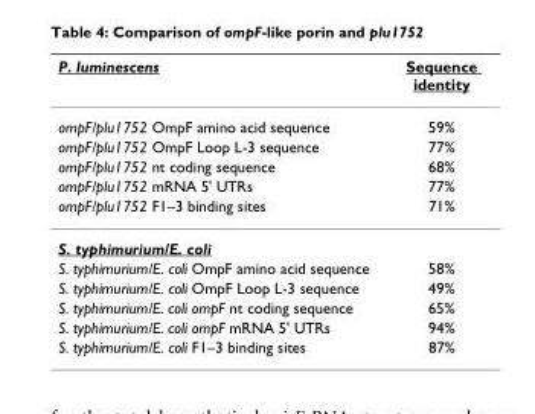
<table><thead><tr><td>P. luminescens</td><td>Sequence identity</td></tr></thead><tbody><tr><td>ompF/plu1752 OmpF amino acid sequence</td><td>59%</td></tr><tr><td>ompF/plu1752 OmpF Loop L-3 sequence</td><td>77%</td></tr><tr><td>ompF/plu1752 nt coding sequence</td><td>68%</td></tr><tr><td>ompF/plu1752 mRNA 5&#x27; UTRs</td><td>77%</td></tr><tr><td>ompF/plu1752 F1–3 binding sites</td><td>71%</td></tr><tr><td colspan="2">S. typhimurium/E. coli</td></tr><tr><td>S. typhimurium/E. coli OmpF amino acid sequence</td><td>58%</td></tr><tr><td>S. typhimurium/E. coli OmpF Loop L-3 sequence</td><td>49%</td></tr><tr><td>S. typhimurium/E. coli ompF nt coding sequence</td><td>65%</td></tr><tr><td>S. typhimurium/E. coli ompF mRNA 5&#x27; UTRs</td><td>94%</td></tr><tr><td>S. typhimurium/E. coli F1–3 binding sites</td><td>87%</td></tr></tbody></table>